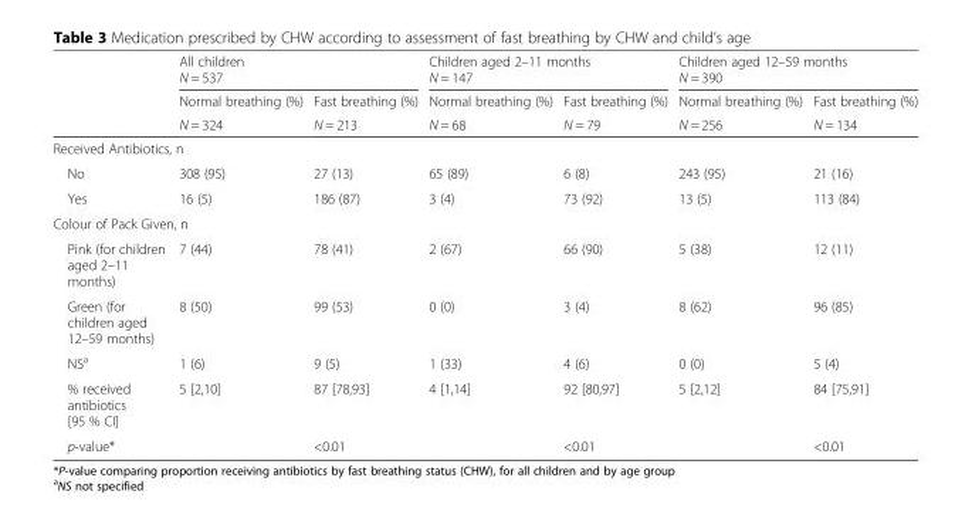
<table><thead><tr><td rowspan="3"></td><td colspan="2">All children N = 537</td><td colspan="2">Children aged 2–11 months N = 147</td><td colspan="2">Children aged 12–59 months N = 390</td></tr><tr><td rowspan="2">Normal breathing (%) N = 324</td><td rowspan="2">Fast breathing (%) N = 213</td><td rowspan="2">Normal breathing (%) N = 68</td><td rowspan="2">Fast breathing (%) N = 79</td><td rowspan="2">Normal breathing (%) N = 256</td><td rowspan="2">Fast breathing (%) N = 134</td></tr><tr></tr></thead><tbody><tr><td colspan="7">Received Antibiotics, n</td></tr><tr><td>No</td><td>308 (95)</td><td>27 (13)</td><td>65 (89)</td><td>6 (8)</td><td>243 (95)</td><td>21 (16)</td></tr><tr><td>Yes</td><td>16 (5)</td><td>186 (87)</td><td>3 (4)</td><td>73 (92)</td><td>13 (5)</td><td>113 (84)</td></tr><tr><td colspan="7">Colour of Pack Given, n</td></tr><tr><td>Pink (for children aged 2–11 months)</td><td>7 (44)</td><td>78 (41)</td><td>2 (67)</td><td>66 (90)</td><td>5 (38)</td><td>12 (11)</td></tr><tr><td>Green (for children aged 12–59 months)</td><td>8 (50)</td><td>99 (53)</td><td>0 (0)</td><td>3 (4)</td><td>8 (62)</td><td>96 (85)</td></tr><tr><td>NS<sup>a</sup></td><td>1 (6)</td><td>9 (5)</td><td>1 (33)</td><td>4 (6)</td><td>0 (0)</td><td>5 (4)</td></tr><tr><td>% received antibiotics [95 % CI]</td><td>5 [2,10]</td><td>87 [78,93]</td><td>4 [1,14]</td><td>92 [80,97]</td><td>5 [2,12]</td><td>84 [75,91]</td></tr><tr><td>p-value*</td><td></td><td>&lt;0.01</td><td></td><td>&lt;0.01</td><td></td><td>&lt;0.01</td></tr></tbody></table>